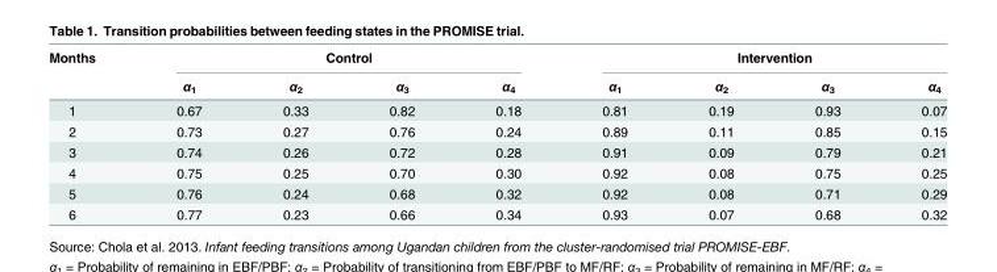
<table><thead><tr><td rowspan="2">Months</td><td colspan="4">Control</td><td colspan="4">Intervention</td></tr><tr><td>α<sub>1</sub></td><td>α<sub>2</sub></td><td>α<sub>3</sub></td><td>α<sub>4</sub></td><td>α<sub>1</sub></td><td>α<sub>2</sub></td><td>α<sub>3</sub></td><td>α<sub>4</sub></td></tr></thead><tbody><tr><td>1</td><td>0.67</td><td>0.33</td><td>0.82</td><td>0.18</td><td>0.81</td><td>0.19</td><td>0.93</td><td>0.07</td></tr><tr><td>2</td><td>0.73</td><td>0.27</td><td>0.76</td><td>0.24</td><td>0.89</td><td>0.11</td><td>0.85</td><td>0.15</td></tr><tr><td>3</td><td>0.74</td><td>0.26</td><td>0.72</td><td>0.28</td><td>0.91</td><td>0.09</td><td>0.79</td><td>0.21</td></tr><tr><td>4</td><td>0.75</td><td>0.25</td><td>0.70</td><td>0.30</td><td>0.92</td><td>0.08</td><td>0.75</td><td>0.25</td></tr><tr><td>5</td><td>0.76</td><td>0.24</td><td>0.68</td><td>0.32</td><td>0.92</td><td>0.08</td><td>0.71</td><td>0.29</td></tr><tr><td>6</td><td>0.77</td><td>0.23</td><td>0.66</td><td>0.34</td><td>0.93</td><td>0.07</td><td>0.68</td><td>0.32</td></tr></tbody></table>